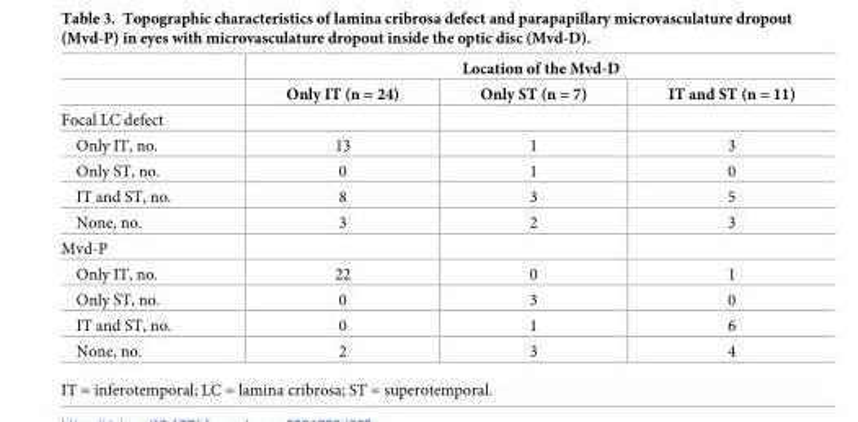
<table><thead><tr><td rowspan="2"></td><td colspan="3">Location of the Mvd-D</td></tr><tr><td>Only IT (n = 24)</td><td>Only ST (n = 7)</td><td>IT and ST (n = 11)</td></tr></thead><tbody><tr><td colspan="4">Focal LC defect</td></tr><tr><td>Only IT, no.</td><td>13</td><td>1</td><td>3</td></tr><tr><td>Only ST, no.</td><td>0</td><td>1</td><td>0</td></tr><tr><td>IT and ST, no.</td><td>8</td><td>3</td><td>5</td></tr><tr><td>None, no.</td><td>3</td><td>2</td><td>3</td></tr><tr><td colspan="4">Mvd-P</td></tr><tr><td>Only IT, no.</td><td>22</td><td>0</td><td>1</td></tr><tr><td>Only ST, no.</td><td>0</td><td>3</td><td>0</td></tr><tr><td>IT and ST, no.</td><td>0</td><td>1</td><td>6</td></tr><tr><td>None, no.</td><td>2</td><td>3</td><td>4</td></tr></tbody></table>